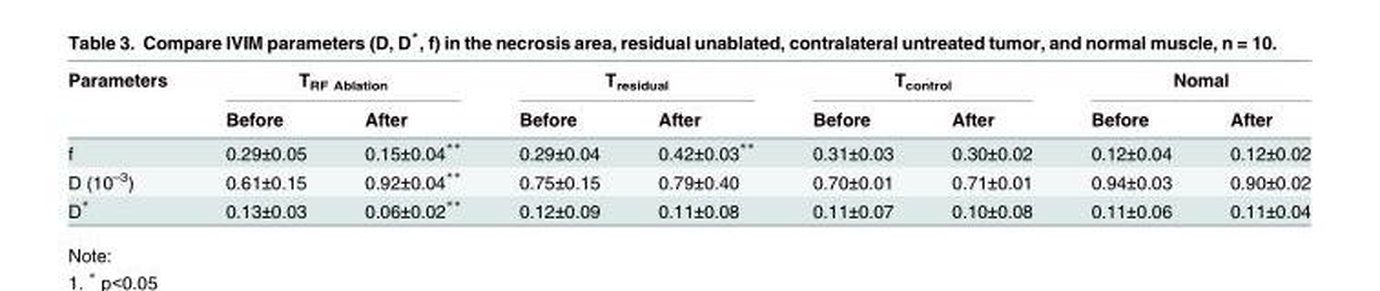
<table><thead><tr><td rowspan="2">Parameters</td><td colspan="2">T<sub>RF Ablation</sub></td><td colspan="2">T<sub>residual</sub></td><td colspan="2">T<sub>control</sub></td><td colspan="2">Nomal</td></tr><tr><td>Before</td><td>After</td><td>Before</td><td>After</td><td>Before</td><td>After</td><td>Before</td><td>After</td></tr></thead><tbody><tr><td>f</td><td>0.29±0.05</td><td>0.15±0.04**</td><td>0.29±0.04</td><td>0.42±0.03**</td><td>0.31±0.03</td><td>0.30±0.02</td><td>0.12±0.04</td><td>0.12±0.02</td></tr><tr><td>D (10<sup>–3</sup>)</td><td>0.61±0.15</td><td>0.92±0.04**</td><td>0.75±0.15</td><td>0.79±0.40</td><td>0.70±0.01</td><td>0.71±0.01</td><td>0.94±0.03</td><td>0.90±0.02</td></tr><tr><td>D*</td><td>0.13±0.03</td><td>0.06±0.02**</td><td>0.12±0.09</td><td>0.11±0.08</td><td>0.11±0.07</td><td>0.10±0.08</td><td>0.11±0.06</td><td>0.11±0.04</td></tr></tbody></table>